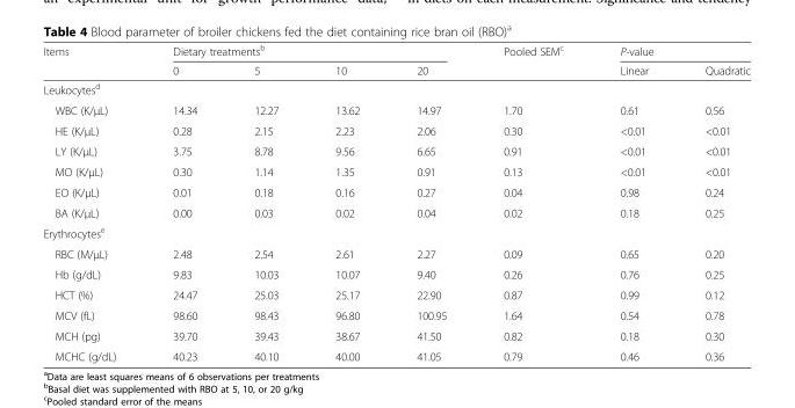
<table><thead><tr><td rowspan="2">Items</td><td colspan="4">Dietary treatments<sup>b</sup></td><td rowspan="2">Pooled SEM<sup>c</sup></td><td colspan="2">P-value</td></tr><tr><td>0</td><td>5</td><td>10</td><td>20</td><td>Linear</td><td>Quadratic</td></tr></thead><tbody><tr><td colspan="8">Leukocytes<sup>d</sup></td></tr><tr><td>WBC (K/μL)</td><td>14.34</td><td>12.27</td><td>13.62</td><td>14.97</td><td>1.70</td><td>0.61</td><td>0.56</td></tr><tr><td>HE (K/μL)</td><td>0.28</td><td>2.15</td><td>2.23</td><td>2.06</td><td>0.30</td><td>&lt;0.01</td><td>&lt;0.01</td></tr><tr><td>LY (K/μL)</td><td>3.75</td><td>8.78</td><td>9.56</td><td>6.65</td><td>0.91</td><td>&lt;0.01</td><td>&lt;0.01</td></tr><tr><td>MO (K/μL)</td><td>0.30</td><td>1.14</td><td>1.35</td><td>0.91</td><td>0.13</td><td>&lt;0.01</td><td>&lt;0.01</td></tr><tr><td>EO (K/μL)</td><td>0.01</td><td>0.18</td><td>0.16</td><td>0.27</td><td>0.04</td><td>0.98</td><td>0.24</td></tr><tr><td>BA (K/μL)</td><td>0.00</td><td>0.03</td><td>0.02</td><td>0.04</td><td>0.02</td><td>0.18</td><td>0.25</td></tr><tr><td colspan="8">Erythrocytes<sup>e</sup></td></tr><tr><td>RBC (M/μL)</td><td>2.48</td><td>2.54</td><td>2.61</td><td>2.27</td><td>0.09</td><td>0.65</td><td>0.20</td></tr><tr><td>Hb (g/dL)</td><td>9.83</td><td>10.03</td><td>10.07</td><td>9.40</td><td>0.26</td><td>0.76</td><td>0.25</td></tr><tr><td>HCT (%)</td><td>24.47</td><td>25.03</td><td>25.17</td><td>22.90</td><td>0.87</td><td>0.99</td><td>0.12</td></tr><tr><td>MCV (fL)</td><td>98.60</td><td>98.43</td><td>96.80</td><td>100.95</td><td>1.64</td><td>0.54</td><td>0.78</td></tr><tr><td>MCH (pg)</td><td>39.70</td><td>39.43</td><td>38.67</td><td>41.50</td><td>0.82</td><td>0.18</td><td>0.30</td></tr><tr><td>MCHC (g/dL)</td><td>40.23</td><td>40.10</td><td>40.00</td><td>41.05</td><td>0.79</td><td>0.46</td><td>0.36</td></tr></tbody></table>